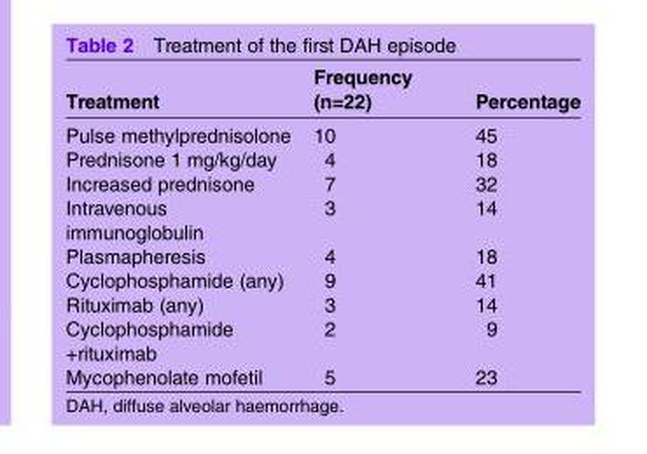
<table><thead><tr><td>Treatment</td><td>Frequency (n=22)</td><td>Percentage</td></tr></thead><tbody><tr><td>Pulse methylprednisolone</td><td>10</td><td>45</td></tr><tr><td>Prednisone 1 mg/kg/day</td><td>4</td><td>18</td></tr><tr><td>Increased prednisone</td><td>7</td><td>32</td></tr><tr><td>Intravenous immunoglobulin</td><td>3</td><td>14</td></tr><tr><td>Plasmapheresis</td><td>4</td><td>18</td></tr><tr><td>Cyclophosphamide (any)</td><td>9</td><td>41</td></tr><tr><td>Rituximab (any)</td><td>3</td><td>14</td></tr><tr><td>Cyclophosphamide +rituximab</td><td>2</td><td>9</td></tr><tr><td>Mycophenolate mofetil</td><td>5</td><td>23</td></tr></tbody></table>